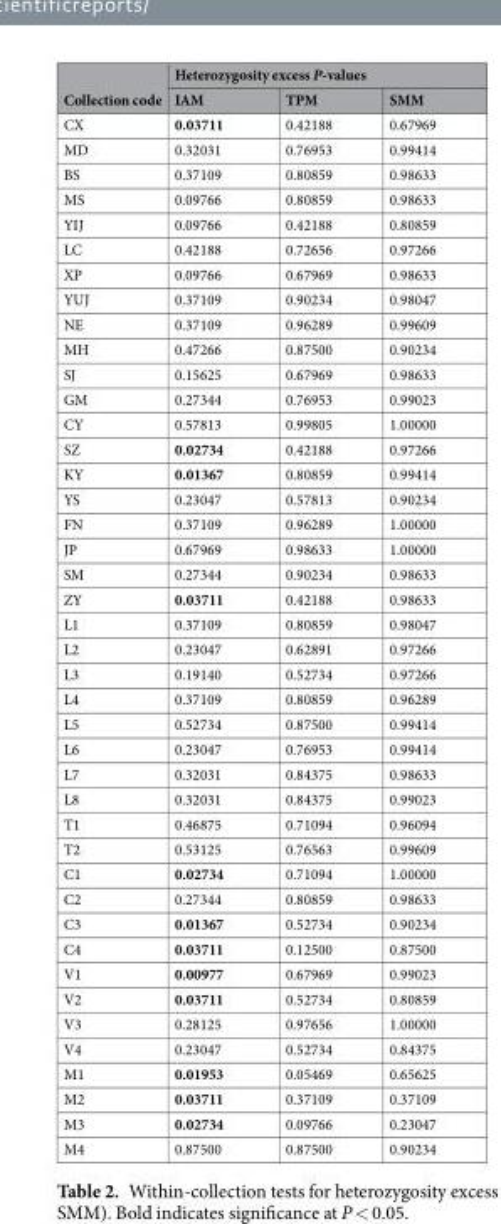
<table><thead><tr><td rowspan="2">Collection code</td><td colspan="3">Heterozygosity excess P-values</td></tr><tr><td>IAM</td><td>TPM</td><td>SMM</td></tr></thead><tbody><tr><td>CX</td><td>0.03711</td><td>0.42188</td><td>0.67969</td></tr><tr><td>MD</td><td>0.32031</td><td>0.76953</td><td>0.99414</td></tr><tr><td>BS</td><td>0.37109</td><td>0.80859</td><td>0.98633</td></tr><tr><td>MS</td><td>0.09766</td><td>0.80859</td><td>0.98633</td></tr><tr><td>YIJ</td><td>0.09766</td><td>0.42188</td><td>0.80859</td></tr><tr><td>LC</td><td>0.42188</td><td>0.72656</td><td>0.97266</td></tr><tr><td>XP</td><td>0.09766</td><td>0.67969</td><td>0.98633</td></tr><tr><td>YUJ</td><td>0.37109</td><td>0.90234</td><td>0.98047</td></tr><tr><td>NE</td><td>0.37109</td><td>0.96289</td><td>0.99609</td></tr><tr><td>MH</td><td>0.47266</td><td>0.87500</td><td>0.90234</td></tr><tr><td>SJ</td><td>0.15625</td><td>0.67969</td><td>0.98633</td></tr><tr><td>GM</td><td>0.27344</td><td>0.76953</td><td>0.99023</td></tr><tr><td>CY</td><td>0.57813</td><td>0.99805</td><td>1.00000</td></tr><tr><td>SZ</td><td>0.02734</td><td>0.42188</td><td>0.97266</td></tr><tr><td>KY</td><td>0.01367</td><td>0.80859</td><td>0.99414</td></tr><tr><td>YS</td><td>0.23047</td><td>0.57813</td><td>0.90234</td></tr><tr><td>FN</td><td>0.37109</td><td>0.96289</td><td>1.00000</td></tr><tr><td>JP</td><td>0.67969</td><td>0.98633</td><td>1.00000</td></tr><tr><td>SM</td><td>0.27344</td><td>0.90234</td><td>0.98633</td></tr><tr><td>ZY</td><td>0.03711</td><td>0.42188</td><td>0.98633</td></tr><tr><td>L1</td><td>0.37109</td><td>0.80859</td><td>0.98047</td></tr><tr><td>L2</td><td>0.23047</td><td>0.62891</td><td>0.97266</td></tr><tr><td>L3</td><td>0.19140</td><td>0.52734</td><td>0.97266</td></tr><tr><td>L4</td><td>0.37109</td><td>0.80859</td><td>0.96289</td></tr><tr><td>L5</td><td>0.52734</td><td>0.87500</td><td>0.99414</td></tr><tr><td>L6</td><td>0.23047</td><td>0.76953</td><td>0.99414</td></tr><tr><td>L7</td><td>0.32031</td><td>0.84375</td><td>0.98633</td></tr><tr><td>L8</td><td>0.32031</td><td>0.84375</td><td>0.99023</td></tr><tr><td>T1</td><td>0.46875</td><td>0.71094</td><td>0.96094</td></tr><tr><td>T2</td><td>0.53125</td><td>0.76563</td><td>0.99609</td></tr><tr><td>C1</td><td>0.02734</td><td>0.71094</td><td>1.00000</td></tr><tr><td>C2</td><td>0.27344</td><td>0.80859</td><td>0.98633</td></tr><tr><td>C3</td><td>0.01367</td><td>0.52734</td><td>0.90234</td></tr><tr><td>C4</td><td>0.03711</td><td>0.12500</td><td>0.87500</td></tr><tr><td>V1</td><td>0.00977</td><td>0.67969</td><td>0.99023</td></tr><tr><td>V2</td><td>0.03711</td><td>0.52734</td><td>0.80859</td></tr><tr><td>V3</td><td>0.28125</td><td>0.97656</td><td>1.00000</td></tr><tr><td>V4</td><td>0.23047</td><td>0.52734</td><td>0.84375</td></tr><tr><td>M1</td><td>0.01953</td><td>0.05469</td><td>0.65625</td></tr><tr><td>M2</td><td>0.03711</td><td>0.37109</td><td>0.37109</td></tr><tr><td>M3</td><td>0.02734</td><td>0.09766</td><td>0.23047</td></tr><tr><td>M4</td><td>0.87500</td><td>0.87500</td><td>0.90234</td></tr></tbody></table>